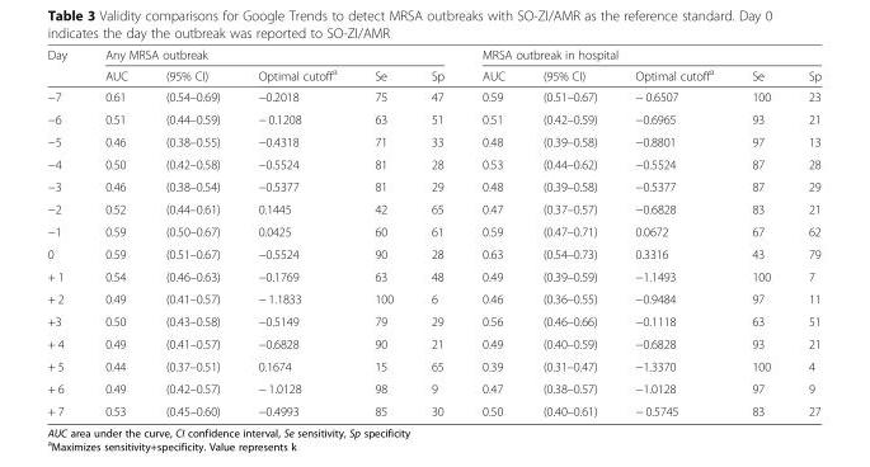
<table><thead><tr><td rowspan="2">Day</td><td colspan="5">Any MRSA outbreak</td><td colspan="5">MRSA outbreak in hospital</td></tr><tr><td>AUC</td><td>(95% CI)</td><td>Optimal cutoff<sup>a</sup></td><td>Se</td><td>Sp</td><td>AUC</td><td>(95% CI)</td><td>Optimal cutoff<sup>a</sup></td><td>Se</td><td>Sp</td></tr></thead><tbody><tr><td>−7</td><td>0.61</td><td>(0.54–0.69)</td><td>−0.2018</td><td>75</td><td>47</td><td>0.59</td><td>(0.51–0.67)</td><td>− 0.6507</td><td>100</td><td>23</td></tr><tr><td>−6</td><td>0.51</td><td>(0.44–0.59)</td><td>− 0.1208</td><td>63</td><td>51</td><td>0.51</td><td>(0.42–0.59)</td><td>−0.6965</td><td>93</td><td>21</td></tr><tr><td>−5</td><td>0.46</td><td>(0.38–0.55)</td><td>−0.4318</td><td>71</td><td>33</td><td>0.48</td><td>(0.39–0.58)</td><td>−0.8801</td><td>97</td><td>13</td></tr><tr><td>−4</td><td>0.50</td><td>(0.42–0.58)</td><td>−0.5524</td><td>81</td><td>28</td><td>0.53</td><td>(0.44–0.62)</td><td>−0.5524</td><td>87</td><td>28</td></tr><tr><td>−3</td><td>0.46</td><td>(0.38–0.54)</td><td>−0.5377</td><td>81</td><td>29</td><td>0.48</td><td>(0.39–0.58)</td><td>−0.5377</td><td>87</td><td>29</td></tr><tr><td>−2</td><td>0.52</td><td>(0.44–0.61)</td><td>0.1445</td><td>42</td><td>65</td><td>0.47</td><td>(0.37–0.57)</td><td>−0.6828</td><td>83</td><td>21</td></tr><tr><td>−1</td><td>0.59</td><td>(0.50–0.67)</td><td>0.0425</td><td>60</td><td>61</td><td>0.59</td><td>(0.47–0.71)</td><td>0.0672</td><td>67</td><td>62</td></tr><tr><td>0</td><td>0.59</td><td>(0.51–0.67)</td><td>−0.5524</td><td>90</td><td>28</td><td>0.63</td><td>(0.54–0.73)</td><td>0.3316</td><td>43</td><td>79</td></tr><tr><td>+ 1</td><td>0.54</td><td>(0.46–0.63)</td><td>−0.1769</td><td>63</td><td>48</td><td>0.49</td><td>(0.39–0.59)</td><td>−1.1493</td><td>100</td><td>7</td></tr><tr><td>+ 2</td><td>0.49</td><td>(0.41–0.57)</td><td>− 1.1833</td><td>100</td><td>6</td><td>0.46</td><td>(0.36–0.55)</td><td>−0.9484</td><td>97</td><td>11</td></tr><tr><td>+3</td><td>0.50</td><td>(0.43–0.58)</td><td>−0.5149</td><td>79</td><td>29</td><td>0.56</td><td>(0.46–0.66)</td><td>−0.1118</td><td>63</td><td>51</td></tr><tr><td>+ 4</td><td>0.49</td><td>(0.41–0.57)</td><td>−0.6828</td><td>90</td><td>21</td><td>0.49</td><td>(0.40–0.59)</td><td>−0.6828</td><td>93</td><td>21</td></tr><tr><td>+ 5</td><td>0.44</td><td>(0.37–0.51)</td><td>0.1674</td><td>15</td><td>65</td><td>0.39</td><td>(0.31–0.47)</td><td>−1.3370</td><td>100</td><td>4</td></tr><tr><td>+ 6</td><td>0.49</td><td>(0.42–0.57)</td><td>− 1.0128</td><td>98</td><td>9</td><td>0.47</td><td>(0.38–0.57)</td><td>−1.0128</td><td>97</td><td>9</td></tr><tr><td>+ 7</td><td>0.53</td><td>(0.45–0.60)</td><td>−0.4993</td><td>85</td><td>30</td><td>0.50</td><td>(0.40–0.61)</td><td>− 0.5745</td><td>83</td><td>27</td></tr></tbody></table>